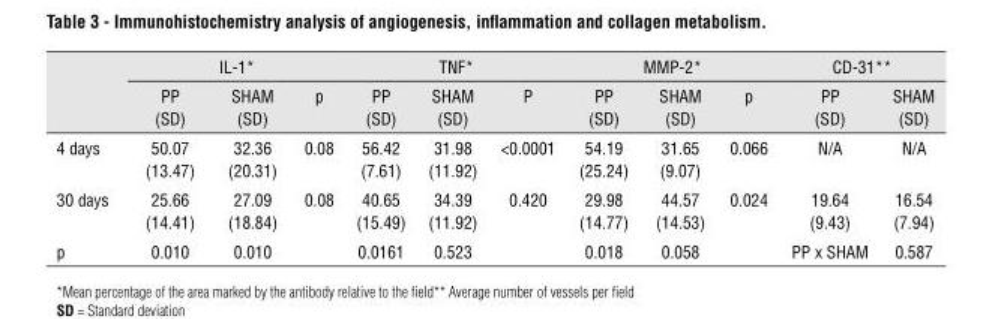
<table><thead><tr><td rowspan="2"></td><td colspan="3">IL-1*</td><td colspan="3">TNF*</td><td colspan="3">MMP-2*</td><td colspan="2">CD-31**</td></tr><tr><td>PP (SD)</td><td>SHAM (SD)</td><td>p</td><td>PP (SD)</td><td>SHAM (SD)</td><td>P</td><td>PP (SD)</td><td>SHAM (SD)</td><td>p</td><td>PP (SD)</td><td>SHAM (SD)</td></tr></thead><tbody><tr><td>4 days</td><td>50.07 (13.47)</td><td>32.36 (20.31)</td><td>0.08</td><td>56.42 (7.61)</td><td>31.98 (11.92)</td><td>&lt;0.0001</td><td>54.19 (25.24)</td><td>31.65 (9.07)</td><td>0.066</td><td>N/A</td><td>N/A</td></tr><tr><td>30 days</td><td>25.66 (14.41)</td><td>27.09 (18.84)</td><td>0.08</td><td>40.65 (15.49)</td><td>34.39 (11.92)</td><td>0.420</td><td>29.98 (14.77)</td><td>44.57 (14.53)</td><td>0.024</td><td>19.64 (9.43)</td><td>16.54 (7.94)</td></tr><tr><td>p</td><td>0.010</td><td>0.010</td><td></td><td>0.0161</td><td>0.523</td><td></td><td>0.018</td><td>0.058</td><td></td><td>PP x SHAM</td><td>0.587</td></tr></tbody></table>